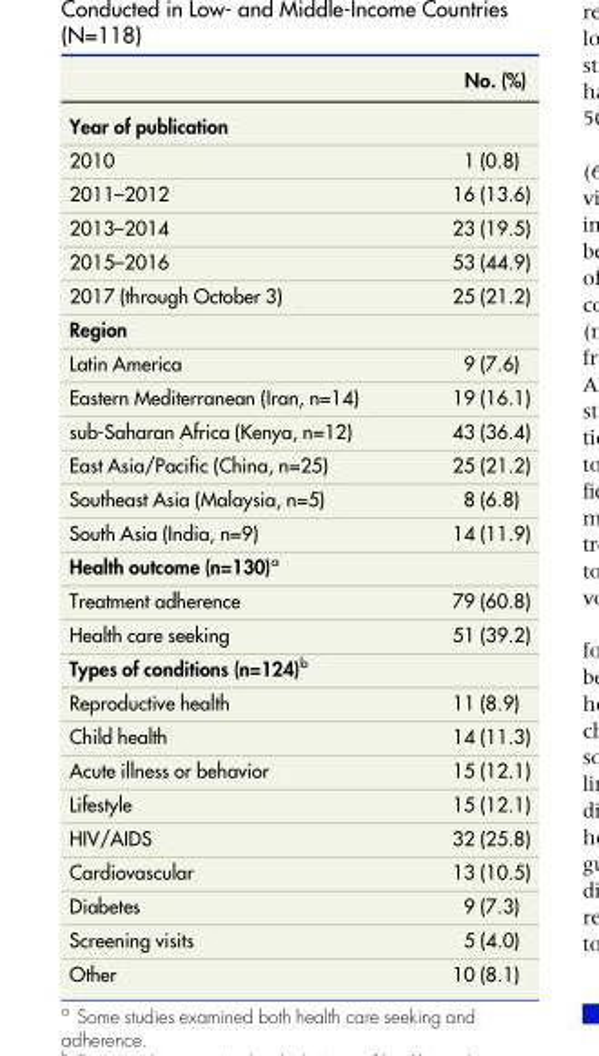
<table><thead><tr><td></td><td>No. (%)</td></tr></thead><tbody><tr><td colspan="2">Year of publication</td></tr><tr><td>2010</td><td>1 (0.8)</td></tr><tr><td>2011–2012</td><td>16 (13.6)</td></tr><tr><td>2013–2014</td><td>23 (19.5)</td></tr><tr><td>2015–2016</td><td>53 (44.9)</td></tr><tr><td>2017 (through October 3)</td><td>25 (21.2)</td></tr><tr><td colspan="2">Region</td></tr><tr><td>Latin America</td><td>9 (7.6)</td></tr><tr><td>Eastern Mediterranean (Iran, n=14)</td><td>19 (16.1)</td></tr><tr><td>sub-Saharan Africa (Kenya, n=12)</td><td>43 (36.4)</td></tr><tr><td>East Asia/Pacific (China, n=25)</td><td>25 (21.2)</td></tr><tr><td>Southeast Asia (Malaysia, n=5)</td><td>8 (6.8)</td></tr><tr><td>South Asia (India, n=9)</td><td>14 (11.9)</td></tr><tr><td colspan="2">Health outcome (n=130)<sup>a</sup></td></tr><tr><td>Treatment adherence</td><td>79 (60.8)</td></tr><tr><td>Health care seeking</td><td>51 (39.2)</td></tr><tr><td colspan="2">Types of conditions (n=124)<sup>b</sup></td></tr><tr><td>Reproductive health</td><td>11 (8.9)</td></tr><tr><td>Child health</td><td>14 (11.3)</td></tr><tr><td>Acute illness or behavior</td><td>15 (12.1)</td></tr><tr><td>Lifestyle</td><td>15 (12.1)</td></tr><tr><td>HIV/AIDS</td><td>32 (25.8)</td></tr><tr><td>Cardiovascular</td><td>13 (10.5)</td></tr><tr><td>Diabetes</td><td>9 (7.3)</td></tr><tr><td>Screening visits</td><td>5 (4.0)</td></tr><tr><td>Other</td><td>10 (8.1)</td></tr></tbody></table>